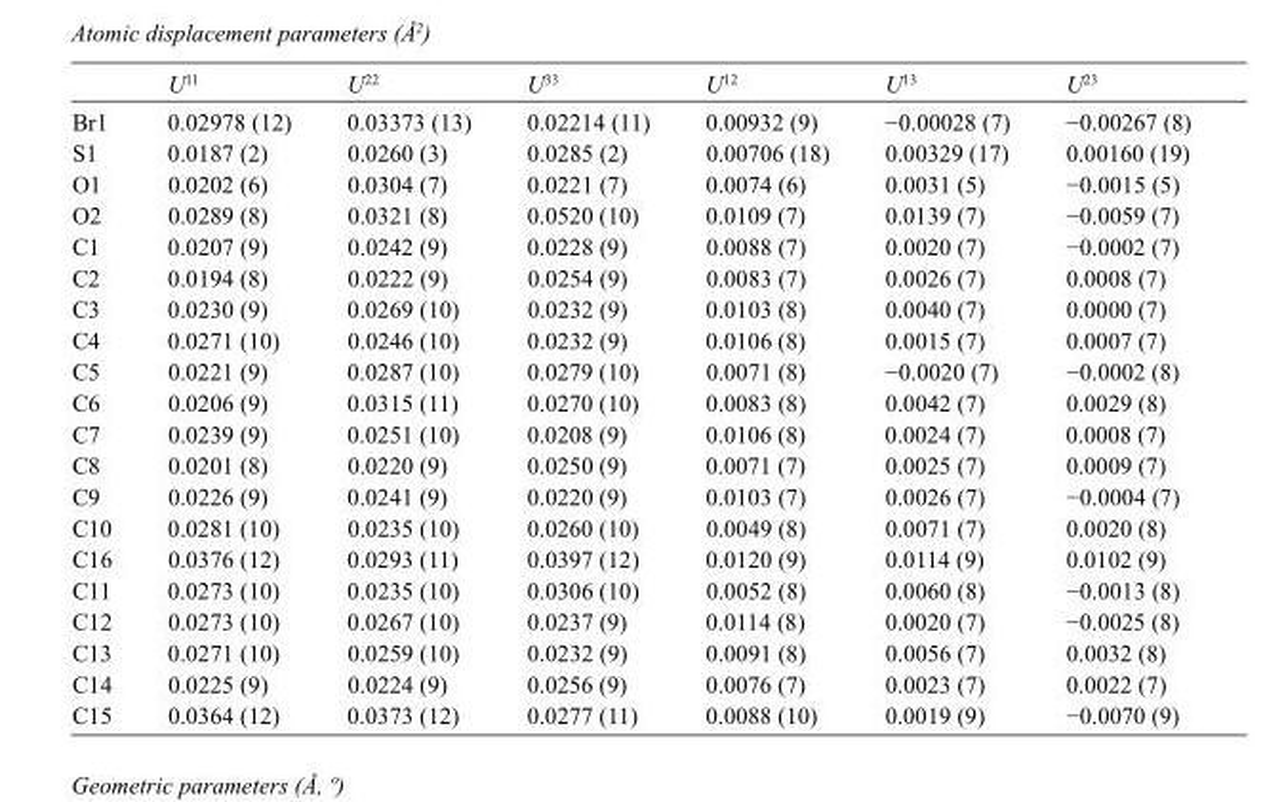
<table><thead><tr><td></td><td>U<sup>11</sup></td><td>U<sup>22</sup></td><td>U<sup>33</sup></td><td>U<sup>12</sup></td><td>U<sup>13</sup></td><td>U<sup>23</sup></td></tr></thead><tbody><tr><td>Br1</td><td>0.02978 (12)</td><td>0.03373 (13)</td><td>0.02214 (11)</td><td>0.00932 (9)</td><td>−0.00028 (7)</td><td>−0.00267 (8)</td></tr><tr><td>S1</td><td>0.0187 (2)</td><td>0.0260 (3)</td><td>0.0285 (2)</td><td>0.00706 (18)</td><td>0.00329 (17)</td><td>0.00160 (19)</td></tr><tr><td>O1</td><td>0.0202 (6)</td><td>0.0304 (7)</td><td>0.0221 (7)</td><td>0.0074 (6)</td><td>0.0031 (5)</td><td>−0.0015 (5)</td></tr><tr><td>O2</td><td>0.0289 (8)</td><td>0.0321 (8)</td><td>0.0520 (10)</td><td>0.0109 (7)</td><td>0.0139 (7)</td><td>−0.0059 (7)</td></tr><tr><td>C1</td><td>0.0207 (9)</td><td>0.0242 (9)</td><td>0.0228 (9)</td><td>0.0088 (7)</td><td>0.0020 (7)</td><td>−0.0002 (7)</td></tr><tr><td>C2</td><td>0.0194 (8)</td><td>0.0222 (9)</td><td>0.0254 (9)</td><td>0.0083 (7)</td><td>0.0026 (7)</td><td>0.0008 (7)</td></tr><tr><td>C3</td><td>0.0230 (9)</td><td>0.0269 (10)</td><td>0.0232 (9)</td><td>0.0103 (8)</td><td>0.0040 (7)</td><td>0.0000 (7)</td></tr><tr><td>C4</td><td>0.0271 (10)</td><td>0.0246 (10)</td><td>0.0232 (9)</td><td>0.0106 (8)</td><td>0.0015 (7)</td><td>0.0007 (7)</td></tr><tr><td>C5</td><td>0.0221 (9)</td><td>0.0287 (10)</td><td>0.0279 (10)</td><td>0.0071 (8)</td><td>−0.0020 (7)</td><td>−0.0002 (8)</td></tr><tr><td>C6</td><td>0.0206 (9)</td><td>0.0315 (11)</td><td>0.0270 (10)</td><td>0.0083 (8)</td><td>0.0042 (7)</td><td>0.0029 (8)</td></tr><tr><td>C7</td><td>0.0239 (9)</td><td>0.0251 (10)</td><td>0.0208 (9)</td><td>0.0106 (8)</td><td>0.0024 (7)</td><td>0.0008 (7)</td></tr><tr><td>C8</td><td>0.0201 (8)</td><td>0.0220 (9)</td><td>0.0250 (9)</td><td>0.0071 (7)</td><td>0.0025 (7)</td><td>0.0009 (7)</td></tr><tr><td>C9</td><td>0.0226 (9)</td><td>0.0241 (9)</td><td>0.0220 (9)</td><td>0.0103 (7)</td><td>0.0026 (7)</td><td>−0.0004 (7)</td></tr><tr><td>C10</td><td>0.0281 (10)</td><td>0.0235 (10)</td><td>0.0260 (10)</td><td>0.0049 (8)</td><td>0.0071 (7)</td><td>0.0020 (8)</td></tr><tr><td>C16</td><td>0.0376 (12)</td><td>0.0293 (11)</td><td>0.0397 (12)</td><td>0.0120 (9)</td><td>0.0114 (9)</td><td>0.0102 (9)</td></tr><tr><td>C11</td><td>0.0273 (10)</td><td>0.0235 (10)</td><td>0.0306 (10)</td><td>0.0052 (8)</td><td>0.0060 (8)</td><td>−0.0013 (8)</td></tr><tr><td>C12</td><td>0.0273 (10)</td><td>0.0267 (10)</td><td>0.0237 (9)</td><td>0.0114 (8)</td><td>0.0020 (7)</td><td>−0.0025 (8)</td></tr><tr><td>C13</td><td>0.0271 (10)</td><td>0.0259 (10)</td><td>0.0232 (9)</td><td>0.0091 (8)</td><td>0.0056 (7)</td><td>0.0032 (8)</td></tr><tr><td>C14</td><td>0.0225 (9)</td><td>0.0224 (9)</td><td>0.0256 (9)</td><td>0.0076 (7)</td><td>0.0023 (7)</td><td>0.0022 (7)</td></tr><tr><td>C15</td><td>0.0364 (12)</td><td>0.0373 (12)</td><td>0.0277 (11)</td><td>0.0088 (10)</td><td>0.0019 (9)</td><td>−0.0070 (9)</td></tr></tbody></table>